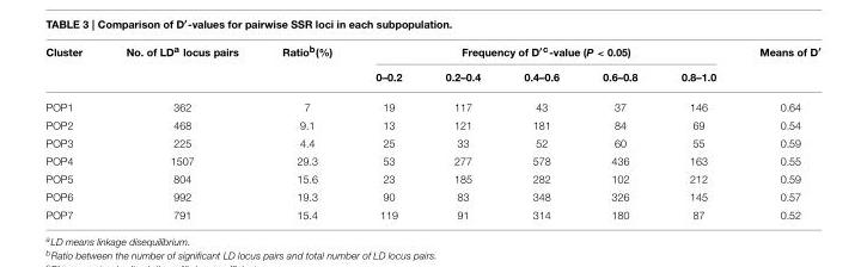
<table><thead><tr><td rowspan="2">Cluster</td><td rowspan="2">No. of LD<sup>a</sup> locus pairs</td><td rowspan="2">Ratio<sup>b</sup>(%)</td><td colspan="5">Frequency of D′<sup>c</sup>-value (P &lt; 0.05)</td><td rowspan="2">Means of D′</td></tr><tr><td>0–0.2</td><td>0.2–0.4</td><td>0.4–0.6</td><td>0.6–0.8</td><td>0.8–1.0</td></tr></thead><tbody><tr><td>POP1</td><td>362</td><td>7</td><td>19</td><td>117</td><td>43</td><td>37</td><td>146</td><td>0.64</td></tr><tr><td>POP2</td><td>468</td><td>9.1</td><td>13</td><td>121</td><td>181</td><td>84</td><td>69</td><td>0.54</td></tr><tr><td>POP3</td><td>225</td><td>4.4</td><td>25</td><td>33</td><td>52</td><td>60</td><td>55</td><td>0.59</td></tr><tr><td>POP4</td><td>1507</td><td>29.3</td><td>53</td><td>277</td><td>578</td><td>436</td><td>163</td><td>0.55</td></tr><tr><td>POP5</td><td>804</td><td>15.6</td><td>23</td><td>185</td><td>282</td><td>102</td><td>212</td><td>0.59</td></tr><tr><td>POP6</td><td>992</td><td>19.3</td><td>90</td><td>83</td><td>348</td><td>326</td><td>145</td><td>0.57</td></tr><tr><td>POP7</td><td>791</td><td>15.4</td><td>119</td><td>91</td><td>314</td><td>180</td><td>87</td><td>0.52</td></tr></tbody></table>